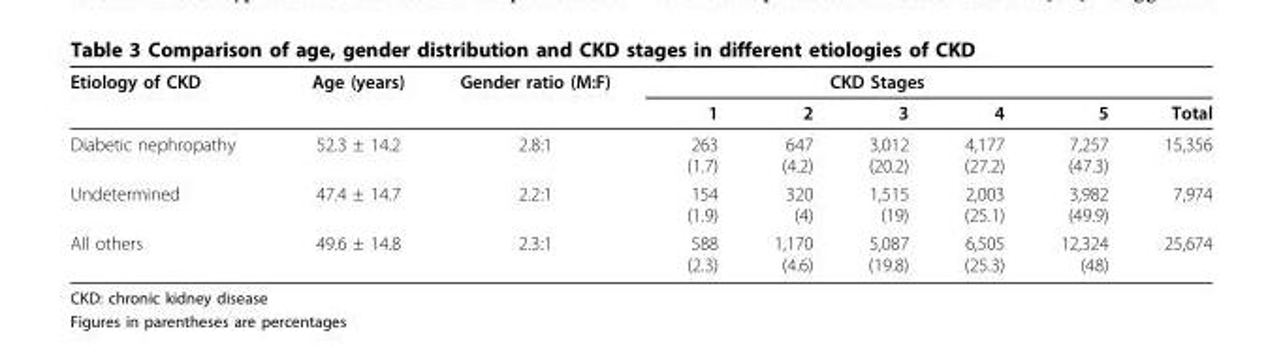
<table><thead><tr><td rowspan="2">Etiology of CKD</td><td rowspan="2">Age (years)</td><td rowspan="2">Gender ratio (M:F)</td><td colspan="5">CKD Stages</td><td rowspan="2">Total</td></tr><tr><td>1</td><td>2</td><td>3</td><td>4</td><td>5</td></tr></thead><tbody><tr><td>Diabetic nephropathy</td><td>52.3 ± 14.2</td><td>2.8:1</td><td>263 (1.7)</td><td>647 (4.2)</td><td>3,012 (20.2)</td><td>4,177 (27.2)</td><td>7,257 (47.3)</td><td>15,356</td></tr><tr><td>Undetermined</td><td>47.4 ± 14.7</td><td>2.2:1</td><td>154 (1.9)</td><td>320 (4)</td><td>1,515 (19)</td><td>2,003 (25.1)</td><td>3,982 (49.9)</td><td>7,974</td></tr><tr><td>All others</td><td>49.6 ± 14.8</td><td>2.3:1</td><td>588 (2.3)</td><td>1,170 (4.6)</td><td>5,087 (19.8)</td><td>6,505 (25.3)</td><td>12,324 (48)</td><td>25,674</td></tr></tbody></table>